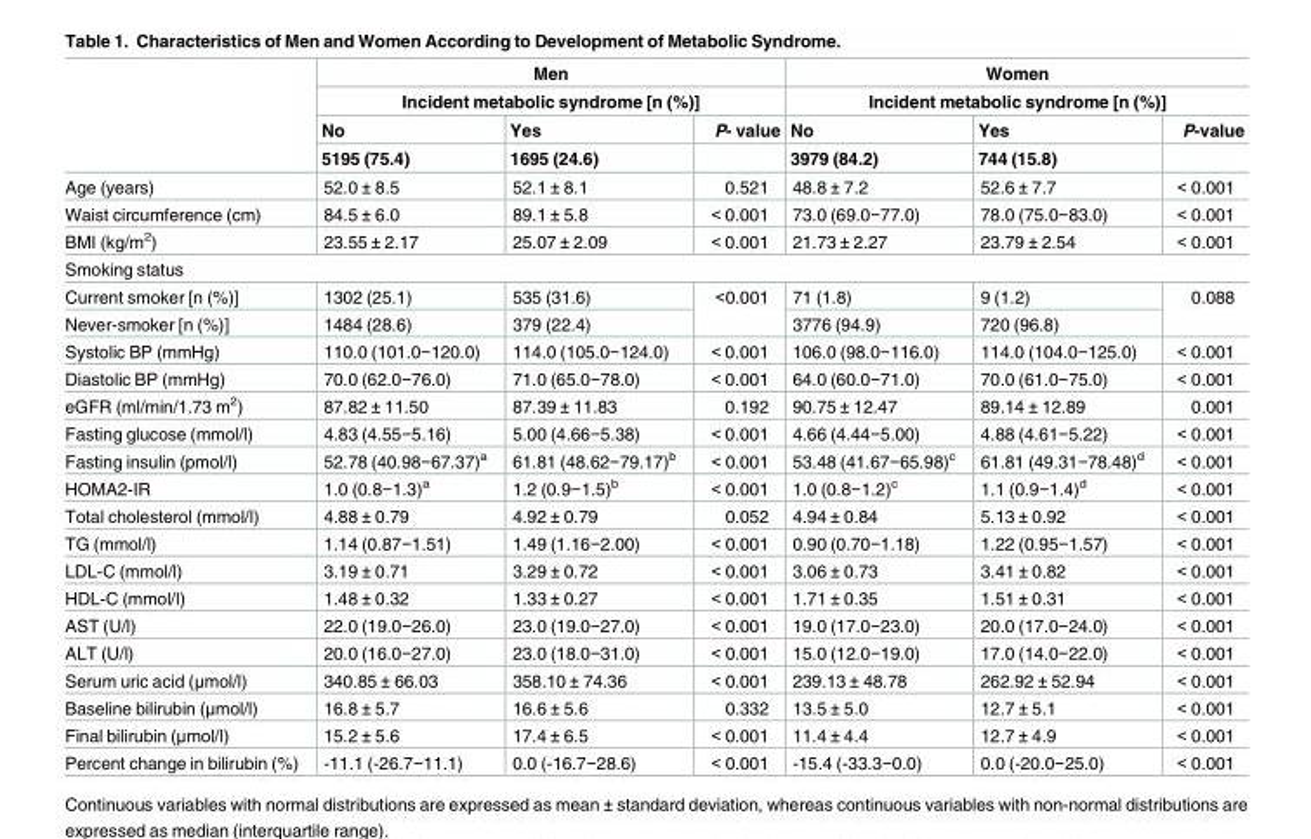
<table><thead><tr><td rowspan="4"></td><td rowspan="2" colspan="3">Men Incident metabolic syndrome [n (%)]</td><td rowspan="2" colspan="3">Women Incident metabolic syndrome [n (%)]</td></tr><tr></tr><tr><td rowspan="2">No 5195 (75.4)</td><td rowspan="2">Yes 1695 (24.6)</td><td rowspan="2">P- value</td><td rowspan="2">No 3979 (84.2)</td><td rowspan="2">Yes 744 (15.8)</td><td rowspan="2">P-value</td></tr><tr></tr></thead><tbody><tr><td>Age (years)</td><td>52.0 ± 8.5</td><td>52.1 ± 8.1</td><td>0.521</td><td>48.8 ± 7.2</td><td>52.6 ± 7.7</td><td>&lt; 0.001</td></tr><tr><td>Waist circumference (cm)</td><td>84.5 ± 6.0</td><td>89.1 ± 5.8</td><td>&lt; 0.001</td><td>73.0 (69.0−77.0)</td><td>78.0 (75.0−83.0)</td><td>&lt; 0.001</td></tr><tr><td>BMI (kg/m<sup>2</sup>)</td><td>23.55 ± 2.17</td><td>25.07 ± 2.09</td><td>&lt; 0.001</td><td>21.73 ± 2.27</td><td>23.79 ± 2.54</td><td>&lt; 0.001</td></tr><tr><td colspan="7">Smoking status</td></tr><tr><td>Current smoker [n (%)]</td><td>1302 (25.1)</td><td>535 (31.6)</td><td rowspan="2">&lt;0.001</td><td>71 (1.8)</td><td>9 (1.2)</td><td rowspan="2">0.088</td></tr><tr><td>Never-smoker [n (%)]</td><td>1484 (28.6)</td><td>379 (22.4)</td><td>3776 (94.9)</td><td>720 (96.8)</td></tr><tr><td>Systolic BP (mmHg)</td><td>110.0 (101.0−120.0)</td><td>114.0 (105.0−124.0)</td><td>&lt; 0.001</td><td>106.0 (98.0−116.0)</td><td>114.0 (104.0−125.0)</td><td>&lt; 0.001</td></tr><tr><td>Diastolic BP (mmHg)</td><td>70.0 (62.0−76.0)</td><td>71.0 (65.0−78.0)</td><td>&lt; 0.001</td><td>64.0 (60.0−71.0)</td><td>70.0 (61.0−75.0)</td><td>&lt; 0.001</td></tr><tr><td>eGFR (ml/min/1.73 m<sup>2</sup>)</td><td>87.82 ± 11.50</td><td>87.39 ± 11.83</td><td>0.192</td><td>90.75 ± 12.47</td><td>89.14 ± 12.89</td><td>0.001</td></tr><tr><td>Fasting glucose (mmol/l)</td><td>4.83 (4.55−5.16)</td><td>5.00 (4.66−5.38)</td><td>&lt; 0.001</td><td>4.66 (4.44−5.00)</td><td>4.88 (4.61−5.22)</td><td>&lt; 0.001</td></tr><tr><td>Fasting insulin (pmol/l)</td><td>52.78 (40.98−67.37)<sup>a</sup></td><td>61.81 (48.62−79.17)<sup>b</sup></td><td>&lt; 0.001</td><td>53.48 (41.67−65.98)<sup>c</sup></td><td>61.81 (49.31−78.48)<sup>d</sup></td><td>&lt; 0.001</td></tr><tr><td>HOMA2-IR</td><td>1.0 (0.8−1.3)<sup>a</sup></td><td>1.2 (0.9−1.5)<sup>b</sup></td><td>&lt; 0.001</td><td>1.0 (0.8−1.2)<sup>c</sup></td><td>1.1 (0.9−1.4)<sup>d</sup></td><td>&lt; 0.001</td></tr><tr><td>Total cholesterol (mmol/l)</td><td>4.88 ± 0.79</td><td>4.92 ± 0.79</td><td>0.052</td><td>4.94 ± 0.84</td><td>5.13 ± 0.92</td><td>&lt; 0.001</td></tr><tr><td>TG (mmol/l)</td><td>1.14 (0.87−1.51)</td><td>1.49 (1.16−2.00)</td><td>&lt; 0.001</td><td>0.90 (0.70−1.18)</td><td>1.22 (0.95−1.57)</td><td>&lt; 0.001</td></tr><tr><td>LDL-C (mmol/l)</td><td>3.19 ± 0.71</td><td>3.29 ± 0.72</td><td>&lt; 0.001</td><td>3.06 ± 0.73</td><td>3.41 ± 0.82</td><td>&lt; 0.001</td></tr><tr><td>HDL-C (mmol/l)</td><td>1.48 ± 0.32</td><td>1.33 ± 0.27</td><td>&lt; 0.001</td><td>1.71 ± 0.35</td><td>1.51 ± 0.31</td><td>&lt; 0.001</td></tr><tr><td>AST (U/l)</td><td>22.0 (19.0−26.0)</td><td>23.0 (19.0−27.0)</td><td>&lt; 0.001</td><td>19.0 (17.0−23.0)</td><td>20.0 (17.0−24.0)</td><td>&lt; 0.001</td></tr><tr><td>ALT (U/l)</td><td>20.0 (16.0−27.0)</td><td>23.0 (18.0−31.0)</td><td>&lt; 0.001</td><td>15.0 (12.0−19.0)</td><td>17.0 (14.0−22.0)</td><td>&lt; 0.001</td></tr><tr><td>Serum uric acid (μmol/l)</td><td>340.85 ± 66.03</td><td>358.10 ± 74.36</td><td>&lt; 0.001</td><td>239.13 ± 48.78</td><td>262.92 ± 52.94</td><td>&lt; 0.001</td></tr><tr><td>Baseline bilirubin (μmol/l)</td><td>16.8 ± 5.7</td><td>16.6 ± 5.6</td><td>0.332</td><td>13.5 ± 5.0</td><td>12.7 ± 5.1</td><td>&lt; 0.001</td></tr><tr><td>Final bilirubin (μmol/l)</td><td>15.2 ± 5.6</td><td>17.4 ± 6.5</td><td>&lt; 0.001</td><td>11.4 ± 4.4</td><td>12.7 ± 4.9</td><td>&lt; 0.001</td></tr><tr><td>Percent change in bilirubin (%)</td><td>-11.1 (-26.7−11.1)</td><td>0.0 (-16.7−28.6)</td><td>&lt; 0.001</td><td>-15.4 (-33.3−0.0)</td><td>0.0 (-20.0−25.0)</td><td>&lt; 0.001</td></tr></tbody></table>